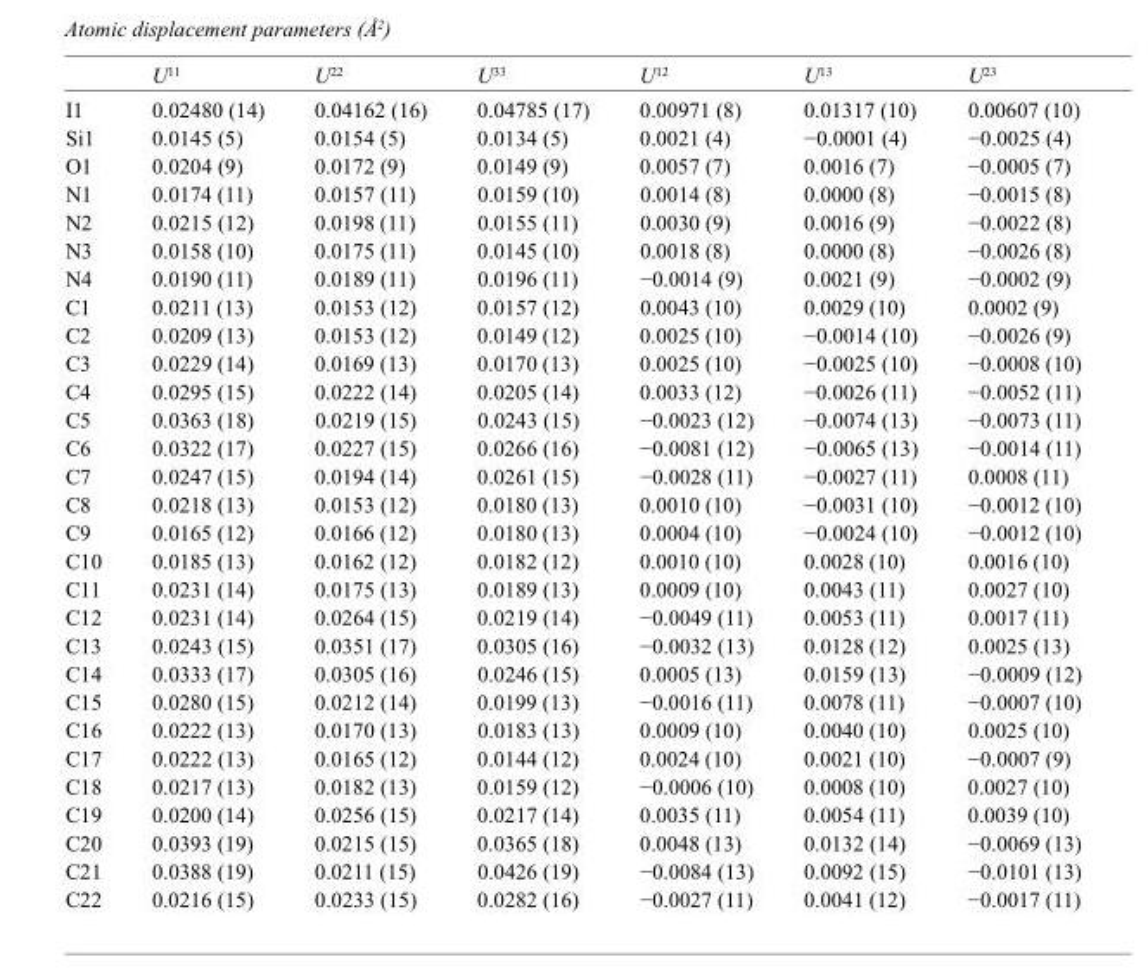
<table><thead><tr><td></td><td>U<sup>11</sup></td><td>U<sup>22</sup></td><td>U<sup>33</sup></td><td>U<sup>12</sup></td><td>U<sup>13</sup></td><td>U<sup>23</sup></td></tr></thead><tbody><tr><td>I1</td><td>0.02480 (14)</td><td>0.04162 (16)</td><td>0.04785 (17)</td><td>0.00971 (8)</td><td>0.01317 (10)</td><td>0.00607 (10)</td></tr><tr><td>Si1</td><td>0.0145 (5)</td><td>0.0154 (5)</td><td>0.0134 (5)</td><td>0.0021 (4)</td><td>−0.0001 (4)</td><td>−0.0025 (4)</td></tr><tr><td>O1</td><td>0.0204 (9)</td><td>0.0172 (9)</td><td>0.0149 (9)</td><td>0.0057 (7)</td><td>0.0016 (7)</td><td>−0.0005 (7)</td></tr><tr><td>N1</td><td>0.0174 (11)</td><td>0.0157 (11)</td><td>0.0159 (10)</td><td>0.0014 (8)</td><td>0.0000 (8)</td><td>−0.0015 (8)</td></tr><tr><td>N2</td><td>0.0215 (12)</td><td>0.0198 (11)</td><td>0.0155 (11)</td><td>0.0030 (9)</td><td>0.0016 (9)</td><td>−0.0022 (8)</td></tr><tr><td>N3</td><td>0.0158 (10)</td><td>0.0175 (11)</td><td>0.0145 (10)</td><td>0.0018 (8)</td><td>0.0000 (8)</td><td>−0.0026 (8)</td></tr><tr><td>N4</td><td>0.0190 (11)</td><td>0.0189 (11)</td><td>0.0196 (11)</td><td>−0.0014 (9)</td><td>0.0021 (9)</td><td>−0.0002 (9)</td></tr><tr><td>C1</td><td>0.0211 (13)</td><td>0.0153 (12)</td><td>0.0157 (12)</td><td>0.0043 (10)</td><td>0.0029 (10)</td><td>0.0002 (9)</td></tr><tr><td>C2</td><td>0.0209 (13)</td><td>0.0153 (12)</td><td>0.0149 (12)</td><td>0.0025 (10)</td><td>−0.0014 (10)</td><td>−0.0026 (9)</td></tr><tr><td>C3</td><td>0.0229 (14)</td><td>0.0169 (13)</td><td>0.0170 (13)</td><td>0.0025 (10)</td><td>−0.0025 (10)</td><td>−0.0008 (10)</td></tr><tr><td>C4</td><td>0.0295 (15)</td><td>0.0222 (14)</td><td>0.0205 (14)</td><td>0.0033 (12)</td><td>−0.0026 (11)</td><td>−0.0052 (11)</td></tr><tr><td>C5</td><td>0.0363 (18)</td><td>0.0219 (15)</td><td>0.0243 (15)</td><td>−0.0023 (12)</td><td>−0.0074 (13)</td><td>−0.0073 (11)</td></tr><tr><td>C6</td><td>0.0322 (17)</td><td>0.0227 (15)</td><td>0.0266 (16)</td><td>−0.0081 (12)</td><td>−0.0065 (13)</td><td>−0.0014 (11)</td></tr><tr><td>C7</td><td>0.0247 (15)</td><td>0.0194 (14)</td><td>0.0261 (15)</td><td>−0.0028 (11)</td><td>−0.0027 (11)</td><td>0.0008 (11)</td></tr><tr><td>C8</td><td>0.0218 (13)</td><td>0.0153 (12)</td><td>0.0180 (13)</td><td>0.0010 (10)</td><td>−0.0031 (10)</td><td>−0.0012 (10)</td></tr><tr><td>C9</td><td>0.0165 (12)</td><td>0.0166 (12)</td><td>0.0180 (13)</td><td>0.0004 (10)</td><td>−0.0024 (10)</td><td>−0.0012 (10)</td></tr><tr><td>C10</td><td>0.0185 (13)</td><td>0.0162 (12)</td><td>0.0182 (12)</td><td>0.0010 (10)</td><td>0.0028 (10)</td><td>0.0016 (10)</td></tr><tr><td>C11</td><td>0.0231 (14)</td><td>0.0175 (13)</td><td>0.0189 (13)</td><td>0.0009 (10)</td><td>0.0043 (11)</td><td>0.0027 (10)</td></tr><tr><td>C12</td><td>0.0231 (14)</td><td>0.0264 (15)</td><td>0.0219 (14)</td><td>−0.0049 (11)</td><td>0.0053 (11)</td><td>0.0017 (11)</td></tr><tr><td>C13</td><td>0.0243 (15)</td><td>0.0351 (17)</td><td>0.0305 (16)</td><td>−0.0032 (13)</td><td>0.0128 (12)</td><td>0.0025 (13)</td></tr><tr><td>C14</td><td>0.0333 (17)</td><td>0.0305 (16)</td><td>0.0246 (15)</td><td>0.0005 (13)</td><td>0.0159 (13)</td><td>−0.0009 (12)</td></tr><tr><td>C15</td><td>0.0280 (15)</td><td>0.0212 (14)</td><td>0.0199 (13)</td><td>−0.0016 (11)</td><td>0.0078 (11)</td><td>−0.0007 (10)</td></tr><tr><td>C16</td><td>0.0222 (13)</td><td>0.0170 (13)</td><td>0.0183 (13)</td><td>0.0009 (10)</td><td>0.0040 (10)</td><td>0.0025 (10)</td></tr><tr><td>C17</td><td>0.0222 (13)</td><td>0.0165 (12)</td><td>0.0144 (12)</td><td>0.0024 (10)</td><td>0.0021 (10)</td><td>−0.0007 (9)</td></tr><tr><td>C18</td><td>0.0217 (13)</td><td>0.0182 (13)</td><td>0.0159 (12)</td><td>−0.0006 (10)</td><td>0.0008 (10)</td><td>0.0027 (10)</td></tr><tr><td>C19</td><td>0.0200 (14)</td><td>0.0256 (15)</td><td>0.0217 (14)</td><td>0.0035 (11)</td><td>0.0054 (11)</td><td>0.0039 (10)</td></tr><tr><td>C20</td><td>0.0393 (19)</td><td>0.0215 (15)</td><td>0.0365 (18)</td><td>0.0048 (13)</td><td>0.0132 (14)</td><td>−0.0069 (13)</td></tr><tr><td>C21</td><td>0.0388 (19)</td><td>0.0211 (15)</td><td>0.0426 (19)</td><td>−0.0084 (13)</td><td>0.0092 (15)</td><td>−0.0101 (13)</td></tr><tr><td>C22</td><td>0.0216 (15)</td><td>0.0233 (15)</td><td>0.0282 (16)</td><td>−0.0027 (11)</td><td>0.0041 (12)</td><td>−0.0017 (11)</td></tr></tbody></table>